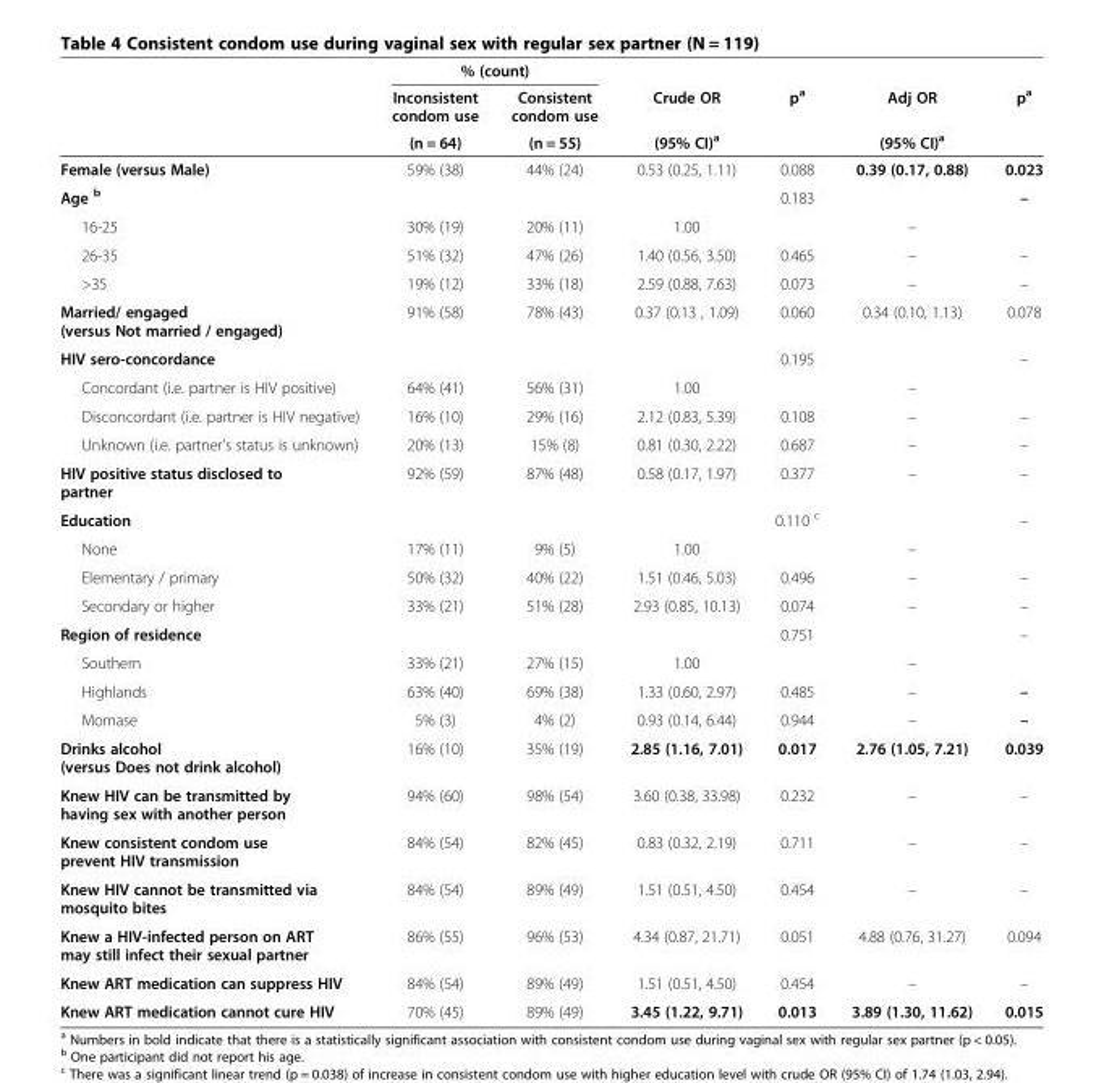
<table><thead><tr><td rowspan="3"></td><td colspan="2">% (count)</td><td rowspan="3">Crude OR (95% CI)<sup>a</sup></td><td rowspan="3">p<sup>a</sup></td><td rowspan="3">Adj OR (95% CI)<sup>a</sup></td><td rowspan="3">p<sup>a</sup></td></tr><tr><td rowspan="2">Inconsistent condom use (n = 64)</td><td rowspan="2">Consistent condom use (n = 55)</td></tr><tr></tr></thead><tbody><tr><td>Female (versus Male)</td><td>59% (38)</td><td>44% (24)</td><td>0.53 (0.25, 1.11)</td><td>0.088</td><td>0.39 (0.17, 0.88)</td><td>0.023</td></tr><tr><td>Age <sup>b</sup></td><td></td><td></td><td></td><td>0.183</td><td></td><td>–</td></tr><tr><td>16-25</td><td>30% (19)</td><td>20% (11)</td><td>1.00</td><td></td><td>–</td><td></td></tr><tr><td>26-35</td><td>51% (32)</td><td>47% (26)</td><td>1.40 (0.56, 3.50)</td><td>0.465</td><td>–</td><td>–</td></tr><tr><td>&gt;35</td><td>19% (12)</td><td>33% (18)</td><td>2.59 (0.88, 7.63)</td><td>0.073</td><td>–</td><td>–</td></tr><tr><td>Married/ engaged (versus Not married / engaged)</td><td>91% (58)</td><td>78% (43)</td><td>0.37 (0.13 , 1.09)</td><td>0.060</td><td>0.34 (0.10, 1.13)</td><td>0.078</td></tr><tr><td>HIV sero-concordance</td><td></td><td></td><td></td><td>0.195</td><td></td><td>–</td></tr><tr><td>Concordant (i.e. partner is HIV positive)</td><td>64% (41)</td><td>56% (31)</td><td>1.00</td><td></td><td>–</td><td></td></tr><tr><td>Disconcordant (i.e. partner is HIV negative)</td><td>16% (10)</td><td>29% (16)</td><td>2.12 (0.83, 5.39)</td><td>0.108</td><td>–</td><td>–</td></tr><tr><td>Unknown (i.e. partner’s status is unknown)</td><td>20% (13)</td><td>15% (8)</td><td>0.81 (0.30, 2.22)</td><td>0.687</td><td>–</td><td>–</td></tr><tr><td>HIV positive status disclosed to partner</td><td>92% (59)</td><td>87% (48)</td><td>0.58 (0.17, 1.97)</td><td>0.377</td><td>–</td><td>–</td></tr><tr><td>Education</td><td></td><td></td><td></td><td>0.110 <sup>c</sup></td><td></td><td>–</td></tr><tr><td>None</td><td>17% (11)</td><td>9% (5)</td><td>1.00</td><td></td><td>–</td><td></td></tr><tr><td>Elementary / primary</td><td>50% (32)</td><td>40% (22)</td><td>1.51 (0.46, 5.03)</td><td>0.496</td><td>–</td><td>–</td></tr><tr><td>Secondary or higher</td><td>33% (21)</td><td>51% (28)</td><td>2.93 (0.85, 10.13)</td><td>0.074</td><td>–</td><td>–</td></tr><tr><td>Region of residence</td><td></td><td></td><td></td><td>0.751</td><td></td><td>–</td></tr><tr><td>Southern</td><td>33% (21)</td><td>27% (15)</td><td>1.00</td><td></td><td>–</td><td></td></tr><tr><td>Highlands</td><td>63% (40)</td><td>69% (38)</td><td>1.33 (0.60, 2.97)</td><td>0.485</td><td>–</td><td>–</td></tr><tr><td>Momase</td><td>5% (3)</td><td>4% (2)</td><td>0.93 (0.14, 6.44)</td><td>0.944</td><td>–</td><td>–</td></tr><tr><td>Drinks alcohol (versus Does not drink alcohol)</td><td>16% (10)</td><td>35% (19)</td><td>2.85 (1.16, 7.01)</td><td>0.017</td><td>2.76 (1.05, 7.21)</td><td>0.039</td></tr><tr><td>Knew HIV can be transmitted by having sex with another person</td><td>94% (60)</td><td>98% (54)</td><td>3.60 (0.38, 33.98)</td><td>0.232</td><td>–</td><td>–</td></tr><tr><td>Knew consistent condom use prevent HIV transmission</td><td>84% (54)</td><td>82% (45)</td><td>0.83 (0.32, 2.19)</td><td>0.711</td><td>–</td><td>–</td></tr><tr><td>Knew HIV cannot be transmitted via mosquito bites</td><td>84% (54)</td><td>89% (49)</td><td>1.51 (0.51, 4.50)</td><td>0.454</td><td>–</td><td>–</td></tr><tr><td>Knew a HIV-infected person on ART may still infect their sexual partner</td><td>86% (55)</td><td>96% (53)</td><td>4.34 (0.87, 21.71)</td><td>0.051</td><td>4.88 (0.76, 31.27)</td><td>0.094</td></tr><tr><td>Knew ART medication can suppress HIV</td><td>84% (54)</td><td>89% (49)</td><td>1.51 (0.51, 4.50)</td><td>0.454</td><td>–</td><td>–</td></tr><tr><td>Knew ART medication cannot cure HIV</td><td>70% (45)</td><td>89% (49)</td><td>3.45 (1.22, 9.71)</td><td>0.013</td><td>3.89 (1.30, 11.62)</td><td>0.015</td></tr></tbody></table>